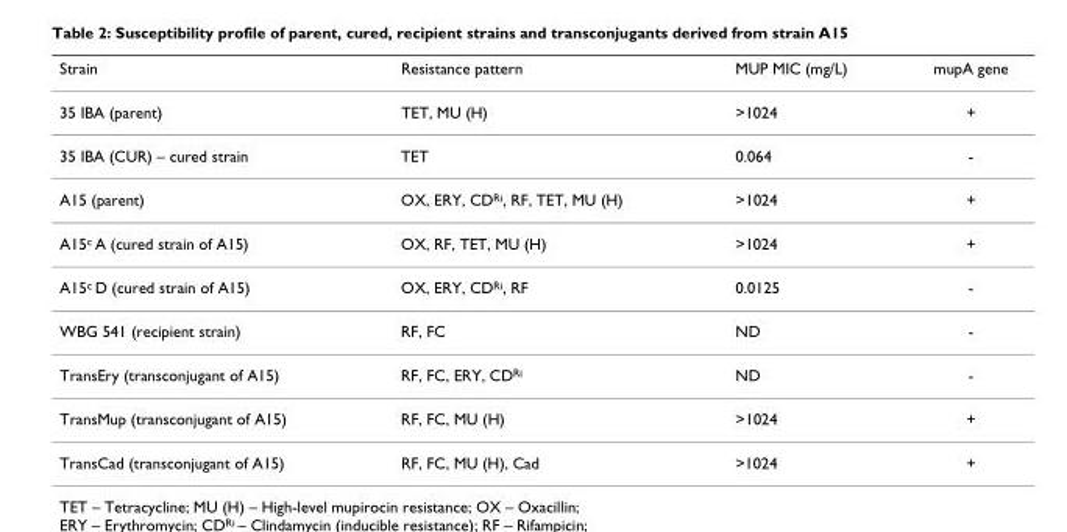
<table><thead><tr><td>Strain</td><td>Resistance pattern</td><td>MUP MIC (mg/L)</td><td>mupA gene</td></tr></thead><tbody><tr><td>35 IBA (parent)</td><td>TET, MU (H)</td><td>&gt;1024</td><td>+</td></tr><tr><td>35 IBA (CUR) – cured strain</td><td>TET</td><td>0.064</td><td>-</td></tr><tr><td>A15 (parent)</td><td>OX, ERY, CD<sup>Ri</sup>, RF, TET, MU (H)</td><td>&gt;1024</td><td>+</td></tr><tr><td>A15<sup>c</sup> A (cured strain of A15)</td><td>OX, RF, TET, MU (H)</td><td>&gt;1024</td><td>+</td></tr><tr><td>A15<sup>c</sup> D (cured strain of A15)</td><td>OX, ERY, CD<sup>Ri</sup>, RF</td><td>0.0125</td><td>-</td></tr><tr><td>WBG 541 (recipient strain)</td><td>RF, FC</td><td>ND</td><td>-</td></tr><tr><td>TransEry (transconjugant of A15)</td><td>RF, FC, ERY, CD<sup>Ri</sup></td><td>ND</td><td>-</td></tr><tr><td>TransMup (transconjugant of A15)</td><td>RF, FC, MU (H)</td><td>&gt;1024</td><td>+</td></tr><tr><td>TransCad (transconjugant of A15)</td><td>RF, FC, MU (H), Cad</td><td>&gt;1024</td><td>+</td></tr></tbody></table>